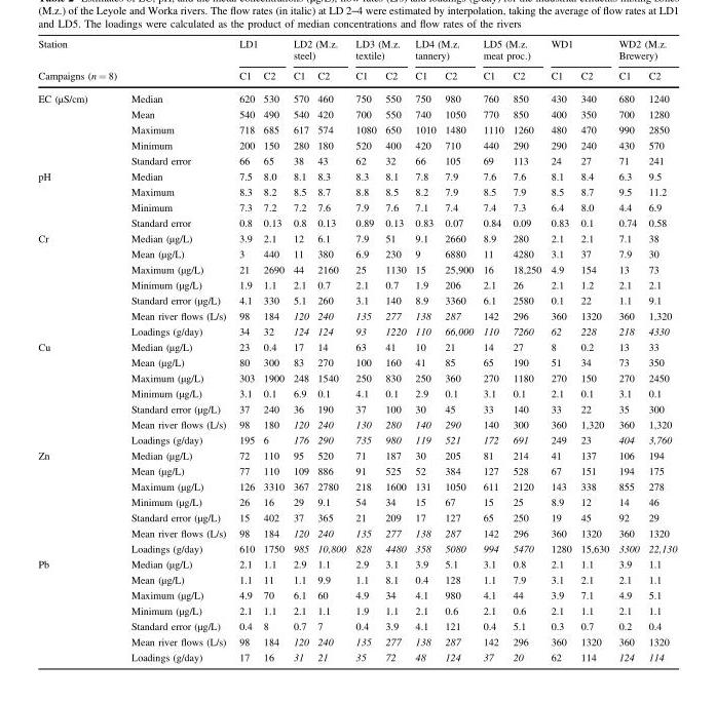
<table><thead><tr><td rowspan="2">Station Campaigns (n = 8)</td><td rowspan="2"></td><td colspan="2">LD1</td><td colspan="2">LD2 (M.z. steel)</td><td colspan="2">LD3 (M.z. textile)</td><td colspan="2">LD4 (M.z. tannery)</td><td colspan="2">LD5 (M.z. meat proc.)</td><td colspan="2">WD1</td><td colspan="2">WD2 (M.z. Brewery)</td></tr><tr><td>C1</td><td>C2</td><td>C1</td><td>C2</td><td>C1</td><td>C2</td><td>C1</td><td>C2</td><td>C1</td><td>C2</td><td>C1</td><td>C2</td><td>C1</td><td>C2</td></tr></thead><tbody><tr><td rowspan="5">EC (µS/cm)</td><td>Median</td><td>620</td><td>530</td><td>570</td><td>460</td><td>750</td><td>550</td><td>750</td><td>980</td><td>760</td><td>850</td><td>430</td><td>340</td><td>680</td><td>1240</td></tr><tr><td>Mean</td><td>540</td><td>490</td><td>540</td><td>420</td><td>700</td><td>550</td><td>740</td><td>1050</td><td>770</td><td>850</td><td>400</td><td>350</td><td>700</td><td>1280</td></tr><tr><td>Maximum</td><td>718</td><td>685</td><td>617</td><td>574</td><td>1080</td><td>650</td><td>1010</td><td>1480</td><td>1110</td><td>1260</td><td>480</td><td>470</td><td>990</td><td>2850</td></tr><tr><td>Minimum</td><td>200</td><td>150</td><td>280</td><td>180</td><td>520</td><td>400</td><td>420</td><td>710</td><td>440</td><td>290</td><td>290</td><td>240</td><td>430</td><td>570</td></tr><tr><td>Standard error</td><td>66</td><td>65</td><td>38</td><td>43</td><td>62</td><td>32</td><td>66</td><td>105</td><td>69</td><td>113</td><td>24</td><td>27</td><td>71</td><td>241</td></tr><tr><td rowspan="4">pH</td><td>Median</td><td>7.5</td><td>8.0</td><td>8.1</td><td>8.3</td><td>8.3</td><td>8.1</td><td>7.8</td><td>7.9</td><td>7.6</td><td>7.6</td><td>8.1</td><td>8.4</td><td>6.3</td><td>9.5</td></tr><tr><td>Maximum</td><td>8.3</td><td>8.2</td><td>8.5</td><td>8.7</td><td>8.8</td><td>8.5</td><td>8.2</td><td>7.9</td><td>8.5</td><td>7.9</td><td>8.5</td><td>8.7</td><td>9.5</td><td>11.2</td></tr><tr><td>Minimum</td><td>7.3</td><td>7.2</td><td>7.2</td><td>7.6</td><td>7.9</td><td>7.6</td><td>7.1</td><td>7.4</td><td>7.4</td><td>7.3</td><td>6.4</td><td>8.0</td><td>4.4</td><td>6.9</td></tr><tr><td>Standard error</td><td>0.8</td><td>0.13</td><td>0.8</td><td>0.13</td><td>0.89</td><td>0.13</td><td>0.83</td><td>0.07</td><td>0.84</td><td>0.09</td><td>0.83</td><td>0.1</td><td>0.74</td><td>0.58</td></tr><tr><td rowspan="7">Cr</td><td>Median (µg/L)</td><td>3.9</td><td>2.1</td><td>12</td><td>6.1</td><td>7.9</td><td>51</td><td>9.1</td><td>2660</td><td>8.9</td><td>280</td><td>2.1</td><td>2.1</td><td>7.1</td><td>38</td></tr><tr><td>Mean (µg/L)</td><td>3</td><td>440</td><td>11</td><td>380</td><td>6.9</td><td>230</td><td>9</td><td>6880</td><td>11</td><td>4280</td><td>3.1</td><td>37</td><td>7.9</td><td>30</td></tr><tr><td>Maximum (µg/L)</td><td>21</td><td>2690</td><td>44</td><td>2160</td><td>25</td><td>1130</td><td>15</td><td>25,900</td><td>16</td><td>18,250</td><td>4.9</td><td>154</td><td>13</td><td>73</td></tr><tr><td>Minimum (µg/L)</td><td>1.9</td><td>1.1</td><td>2.1</td><td>0.7</td><td>2.1</td><td>0.7</td><td>1.9</td><td>206</td><td>2.1</td><td>26</td><td>2.1</td><td>1.2</td><td>2.1</td><td>2.1</td></tr><tr><td>Standard error (µg/L)</td><td>4.1</td><td>330</td><td>5.1</td><td>260</td><td>3.1</td><td>140</td><td>8.9</td><td>3360</td><td>6.1</td><td>2580</td><td>0.1</td><td>22</td><td>1.1</td><td>9.1</td></tr><tr><td>Mean river flows (L/s)</td><td>98</td><td>184</td><td>120</td><td>240</td><td>135</td><td>277</td><td>138</td><td>287</td><td>142</td><td>296</td><td>360</td><td>1320</td><td>360</td><td>1,320</td></tr><tr><td>Loadings (g/day)</td><td>34</td><td>32</td><td>124</td><td>124</td><td>93</td><td>1220</td><td>110</td><td>66,000</td><td>110</td><td>7260</td><td>62</td><td>228</td><td>218</td><td>4330</td></tr><tr><td rowspan="7">Cu</td><td>Median (µg/L)</td><td>23</td><td>0.4</td><td>17</td><td>14</td><td>63</td><td>41</td><td>10</td><td>21</td><td>14</td><td>27</td><td>8</td><td>0.2</td><td>13</td><td>33</td></tr><tr><td>Mean (µg/L)</td><td>80</td><td>300</td><td>83</td><td>270</td><td>100</td><td>160</td><td>41</td><td>85</td><td>65</td><td>190</td><td>51</td><td>34</td><td>73</td><td>350</td></tr><tr><td>Maximum (µg/L)</td><td>303</td><td>1900</td><td>248</td><td>1540</td><td>250</td><td>830</td><td>250</td><td>360</td><td>270</td><td>1180</td><td>270</td><td>150</td><td>270</td><td>2450</td></tr><tr><td>Minimum (µg/L)</td><td>3.1</td><td>0.1</td><td>6.9</td><td>0.1</td><td>4.1</td><td>0.1</td><td>2.9</td><td>0.1</td><td>3.1</td><td>0.1</td><td>2.1</td><td>0.1</td><td>3.1</td><td>0.1</td></tr><tr><td>Standard error (µg/L)</td><td>37</td><td>240</td><td>36</td><td>190</td><td>37</td><td>100</td><td>30</td><td>45</td><td>33</td><td>140</td><td>33</td><td>22</td><td>35</td><td>300</td></tr><tr><td>Mean river flows (L/s)</td><td>98</td><td>180</td><td>120</td><td>240</td><td>130</td><td>280</td><td>140</td><td>290</td><td>140</td><td>300</td><td>360</td><td>1,320</td><td>360</td><td>1,320</td></tr><tr><td>Loadings (g/day)</td><td>195</td><td>6</td><td>176</td><td>290</td><td>735</td><td>980</td><td>119</td><td>521</td><td>172</td><td>691</td><td>249</td><td>23</td><td>404</td><td>3,760</td></tr><tr><td rowspan="7">Zn</td><td>Median (µg/L)</td><td>72</td><td>110</td><td>95</td><td>520</td><td>71</td><td>187</td><td>30</td><td>205</td><td>81</td><td>214</td><td>41</td><td>137</td><td>106</td><td>194</td></tr><tr><td>Mean (µg/L)</td><td>77</td><td>110</td><td>109</td><td>886</td><td>91</td><td>525</td><td>52</td><td>384</td><td>127</td><td>528</td><td>67</td><td>151</td><td>194</td><td>175</td></tr><tr><td>Maximum (µg/L)</td><td>126</td><td>3310</td><td>367</td><td>2780</td><td>218</td><td>1600</td><td>131</td><td>1050</td><td>611</td><td>2120</td><td>143</td><td>338</td><td>855</td><td>278</td></tr><tr><td>Minimum (µg/L)</td><td>26</td><td>16</td><td>29</td><td>9.1</td><td>54</td><td>34</td><td>15</td><td>67</td><td>15</td><td>25</td><td>8.9</td><td>12</td><td>14</td><td>46</td></tr><tr><td>Standard error (µg/L)</td><td>15</td><td>402</td><td>37</td><td>365</td><td>21</td><td>209</td><td>17</td><td>127</td><td>65</td><td>250</td><td>19</td><td>45</td><td>92</td><td>29</td></tr><tr><td>Mean river flows (L/s)</td><td>98</td><td>184</td><td>120</td><td>240</td><td>135</td><td>277</td><td>138</td><td>287</td><td>142</td><td>296</td><td>360</td><td>1320</td><td>360</td><td>1320</td></tr><tr><td>Loadings (g/day)</td><td>610</td><td>1750</td><td>985</td><td>10,800</td><td>828</td><td>4480</td><td>358</td><td>5080</td><td>994</td><td>5470</td><td>1280</td><td>15,630</td><td>3300</td><td>22,130</td></tr><tr><td rowspan="7">Pb</td><td>Median (µg/L)</td><td>2.1</td><td>1.1</td><td>2.9</td><td>1.1</td><td>2.9</td><td>3.1</td><td>3.9</td><td>5.1</td><td>3.1</td><td>0.8</td><td>2.1</td><td>1.1</td><td>3.9</td><td>1.1</td></tr><tr><td>Mean (µg/L)</td><td>1.1</td><td>11</td><td>1.1</td><td>9.9</td><td>1.1</td><td>8.1</td><td>0.4</td><td>128</td><td>1.1</td><td>7.9</td><td>3.1</td><td>2.1</td><td>2.1</td><td>1.1</td></tr><tr><td>Maximum (µg/L)</td><td>4.9</td><td>70</td><td>6.1</td><td>60</td><td>4.9</td><td>34</td><td>4.1</td><td>980</td><td>4.1</td><td>44</td><td>3.9</td><td>7.1</td><td>4.9</td><td>5.1</td></tr><tr><td>Minimum (µg/L)</td><td>2.1</td><td>1.1</td><td>2.1</td><td>1.1</td><td>1.9</td><td>1.1</td><td>2.1</td><td>0.6</td><td>2.1</td><td>0.6</td><td>2.1</td><td>1.1</td><td>2.1</td><td>1.1</td></tr><tr><td>Standard error (µg/L)</td><td>0.4</td><td>8</td><td>0.7</td><td>7</td><td>0.4</td><td>3.9</td><td>4.1</td><td>121</td><td>0.4</td><td>5.1</td><td>0.3</td><td>0.7</td><td>0.2</td><td>0.4</td></tr><tr><td>Mean river flows (L/s)</td><td>98</td><td>184</td><td>120</td><td>240</td><td>135</td><td>277</td><td>138</td><td>287</td><td>142</td><td>296</td><td>360</td><td>1320</td><td>360</td><td>1320</td></tr><tr><td>Loadings (g/day)</td><td>17</td><td>16</td><td>31</td><td>21</td><td>35</td><td>72</td><td>48</td><td>124</td><td>37</td><td>20</td><td>62</td><td>114</td><td>124</td><td>114</td></tr></tbody></table>